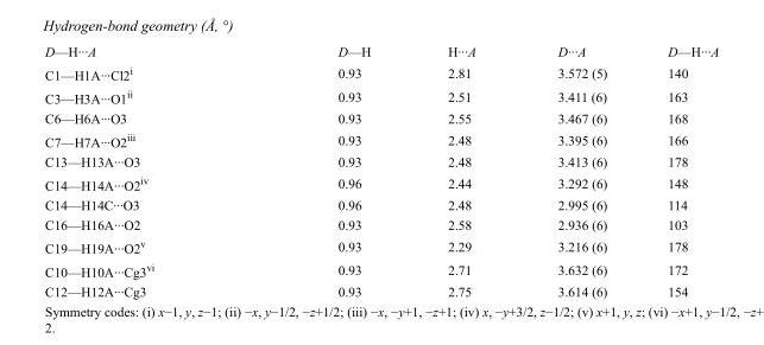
<table><tbody><tr><td>D—H···A</td><td>D—H</td><td>H···A</td><td>D···A</td><td>D—H···A</td></tr><tr><td>C1—H1A···Cl2<sup>i</sup></td><td>0.93</td><td>2.81</td><td>3.572 (5)</td><td>140</td></tr><tr><td>C3—H3A···O1<sup>ii</sup></td><td>0.93</td><td>2.51</td><td>3.411 (6)</td><td>163</td></tr><tr><td>C6—H6A···O3</td><td>0.93</td><td>2.55</td><td>3.467 (6)</td><td>168</td></tr><tr><td>C7—H7A···O2<sup>iii</sup></td><td>0.93</td><td>2.48</td><td>3.395 (6)</td><td>166</td></tr><tr><td>C13—H13A···O3</td><td>0.93</td><td>2.48</td><td>3.413 (6)</td><td>178</td></tr><tr><td>C14—H14A···O2<sup>iv</sup></td><td>0.96</td><td>2.44</td><td>3.292 (6)</td><td>148</td></tr><tr><td>C14—H14C···O3</td><td>0.96</td><td>2.48</td><td>2.995 (6)</td><td>114</td></tr><tr><td>C16—H16A···O2</td><td>0.93</td><td>2.58</td><td>2.936 (6)</td><td>103</td></tr><tr><td>C19—H19A···O2<sup>v</sup></td><td>0.93</td><td>2.29</td><td>3.216 (6)</td><td>178</td></tr><tr><td>C10—H10A···Cg3<sup>vi</sup></td><td>0.93</td><td>2.71</td><td>3.632 (6)</td><td>172</td></tr><tr><td>C12—H12A···Cg3</td><td>0.93</td><td>2.75</td><td>3.614 (6)</td><td>154</td></tr></tbody></table>